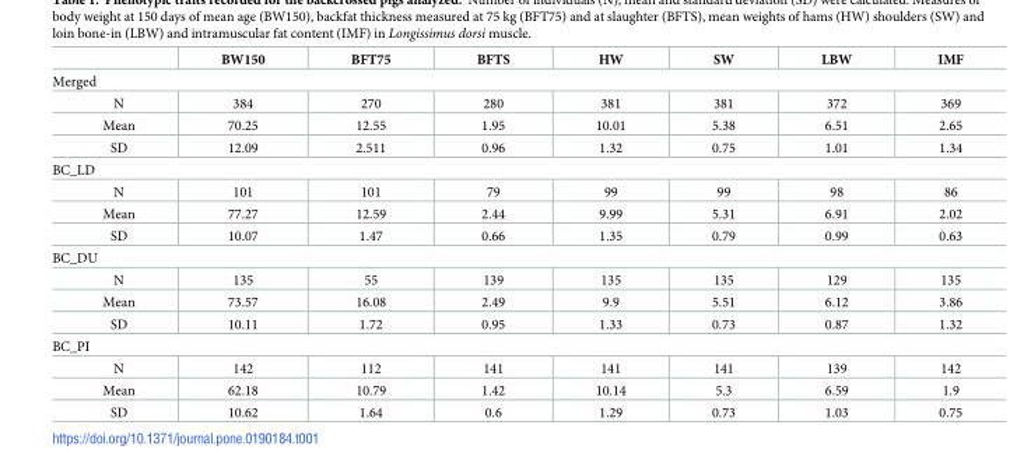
<table><thead><tr><td></td><td>BW150</td><td>BFT75</td><td>BFTS</td><td>HW</td><td>SW</td><td>LBW</td><td>IMF</td></tr></thead><tbody><tr><td colspan="8">Merged</td></tr><tr><td>N</td><td>384</td><td>270</td><td>280</td><td>381</td><td>381</td><td>372</td><td>369</td></tr><tr><td>Mean</td><td>70.25</td><td>12.55</td><td>1.95</td><td>10.01</td><td>5.38</td><td>6.51</td><td>2.65</td></tr><tr><td>SD</td><td>12.09</td><td>2.511</td><td>0.96</td><td>1.32</td><td>0.75</td><td>1.01</td><td>1.34</td></tr><tr><td colspan="8">BC_LD</td></tr><tr><td>N</td><td>101</td><td>101</td><td>79</td><td>99</td><td>99</td><td>98</td><td>86</td></tr><tr><td>Mean</td><td>77.27</td><td>12.59</td><td>2.44</td><td>9.99</td><td>5.31</td><td>6.91</td><td>2.02</td></tr><tr><td>SD</td><td>10.07</td><td>1.47</td><td>0.66</td><td>1.35</td><td>0.79</td><td>0.99</td><td>0.63</td></tr><tr><td colspan="8">BC_DU</td></tr><tr><td>N</td><td>135</td><td>55</td><td>139</td><td>135</td><td>135</td><td>129</td><td>135</td></tr><tr><td>Mean</td><td>73.57</td><td>16.08</td><td>2.49</td><td>9.9</td><td>5.51</td><td>6.12</td><td>3.86</td></tr><tr><td>SD</td><td>10.11</td><td>1.72</td><td>0.95</td><td>1.33</td><td>0.73</td><td>0.87</td><td>1.32</td></tr><tr><td colspan="8">BC_PI</td></tr><tr><td>N</td><td>142</td><td>112</td><td>141</td><td>141</td><td>141</td><td>139</td><td>142</td></tr><tr><td>Mean</td><td>62.18</td><td>10.79</td><td>1.42</td><td>10.14</td><td>5.3</td><td>6.59</td><td>1.9</td></tr><tr><td>SD</td><td>10.62</td><td>1.64</td><td>0.6</td><td>1.29</td><td>0.73</td><td>1.03</td><td>0.75</td></tr></tbody></table>